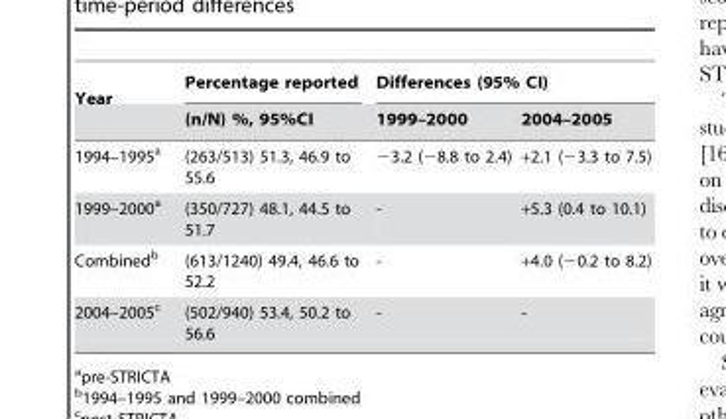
<table><thead><tr><td rowspan="2">Year</td><td rowspan="2">Percentage reported (n/N) %, 95%CI</td><td colspan="2">Differences (95% CI)</td></tr><tr><td>1999–2000</td><td>2004–2005</td></tr></thead><tbody><tr><td>1994–1995<sup>a</sup></td><td>(263/513) 51.3, 46.9 to 55.6</td><td>−3.2 (−8.8 to 2.4)</td><td>+2.1 (−3.3 to 7.5)</td></tr><tr><td>1999–2000<sup>a</sup></td><td>(350/727) 48.1, 44.5 to 51.7</td><td>-</td><td>+5.3 (0.4 to 10.1)</td></tr><tr><td>Combined<sup>b</sup></td><td>(613/1240) 49.4, 46.6 to 52.2</td><td>-</td><td>+4.0 (−0.2 to 8.2)</td></tr><tr><td>2004–2005<sup>c</sup></td><td>(502/940) 53.4, 50.2 to 56.6</td><td>-</td><td>-</td></tr></tbody></table>